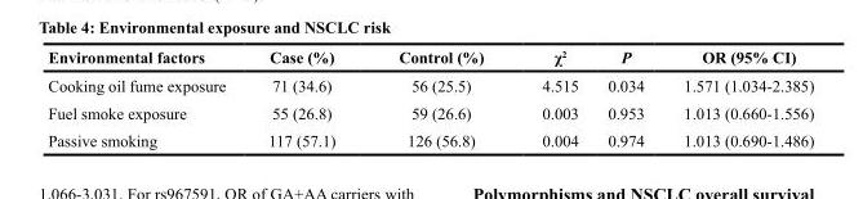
<table><thead><tr><td>Environmental factors</td><td>Case (%)</td><td>Control (%)</td><td>χ<sup>2</sup></td><td>P</td><td>OR (95% CI)</td></tr></thead><tbody><tr><td>Cooking oil fume exposure</td><td>71 (34.6)</td><td>56 (25.5)</td><td>4.515</td><td>0.034</td><td>1.571 (1.034-2.385)</td></tr><tr><td>Fuel smoke exposure</td><td>55 (26.8)</td><td>59 (26.6)</td><td>0.003</td><td>0.953</td><td>1.013 (0.660-1.556)</td></tr><tr><td>Passive smoking</td><td>117 (57.1)</td><td>126 (56.8)</td><td>0.004</td><td>0.974</td><td>1.013 (0.690-1.486)</td></tr></tbody></table>